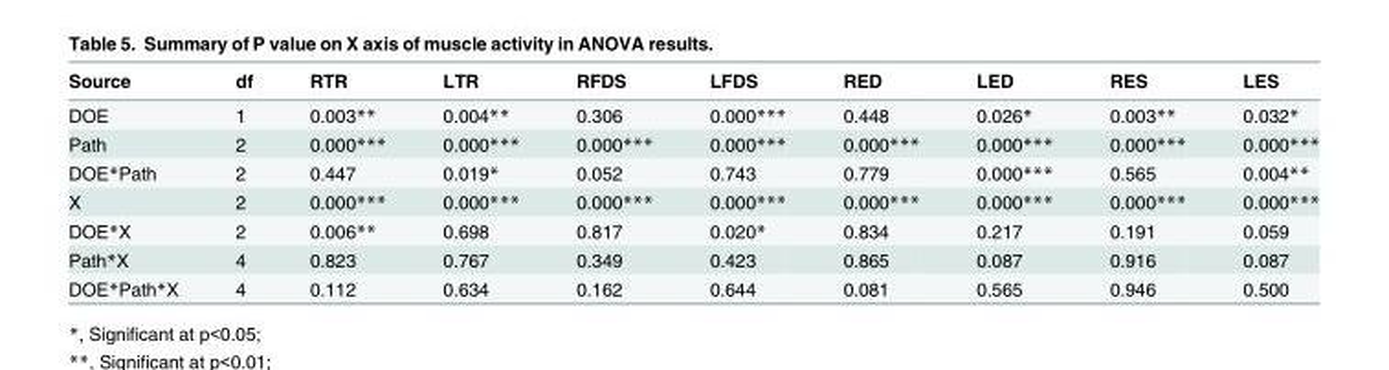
<table><thead><tr><td>Source</td><td>df</td><td>RTR</td><td>LTR</td><td>RFDS</td><td>LFDS</td><td>RED</td><td>LED</td><td>RES</td><td>LES</td></tr></thead><tbody><tr><td>DOE</td><td>1</td><td>0.003**</td><td>0.004**</td><td>0.306</td><td>0.000***</td><td>0.448</td><td>0.026*</td><td>0.003**</td><td>0.032*</td></tr><tr><td>Path</td><td>2</td><td>0.000***</td><td>0.000***</td><td>0.000***</td><td>0.000***</td><td>0.000***</td><td>0.000***</td><td>0.000***</td><td>0.000***</td></tr><tr><td>DOE*Path</td><td>2</td><td>0.447</td><td>0.019*</td><td>0.052</td><td>0.743</td><td>0.779</td><td>0.000***</td><td>0.565</td><td>0.004**</td></tr><tr><td>X</td><td>2</td><td>0.000***</td><td>0.000***</td><td>0.000***</td><td>0.000***</td><td>0.000***</td><td>0.000***</td><td>0.000***</td><td>0.000***</td></tr><tr><td>DOE*X</td><td>2</td><td>0.006**</td><td>0.698</td><td>0.817</td><td>0.020*</td><td>0.834</td><td>0.217</td><td>0.191</td><td>0.059</td></tr><tr><td>Path*X</td><td>4</td><td>0.823</td><td>0.767</td><td>0.349</td><td>0.423</td><td>0.865</td><td>0.087</td><td>0.916</td><td>0.087</td></tr><tr><td>DOE*Path*X</td><td>4</td><td>0.112</td><td>0.634</td><td>0.162</td><td>0.644</td><td>0.081</td><td>0.565</td><td>0.946</td><td>0.500</td></tr></tbody></table>